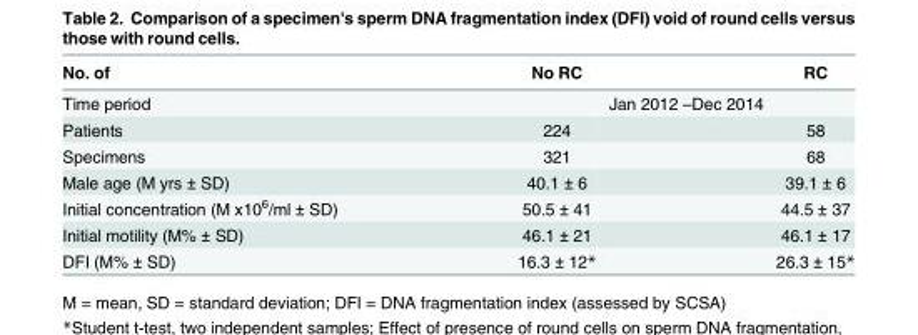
<table><thead><tr><td>No. of</td><td>No RC</td><td>RC</td></tr></thead><tbody><tr><td>Time period</td><td colspan="2">Jan 2012 –Dec 2014</td></tr><tr><td>Patients</td><td>224</td><td>58</td></tr><tr><td>Specimens</td><td>321</td><td>68</td></tr><tr><td>Male age (M yrs ± SD)</td><td>40.1 ± 6</td><td>39.1 ± 6</td></tr><tr><td>Initial concentration (M x10<sup>6</sup>/ml ± SD)</td><td>50.5 ± 41</td><td>44.5 ± 37</td></tr><tr><td>Initial motility (M% ± SD)</td><td>46.1 ± 21</td><td>46.1 ± 17</td></tr><tr><td>DFI (M% ± SD)</td><td>16.3 ± 12*</td><td>26.3 ± 15*</td></tr></tbody></table>